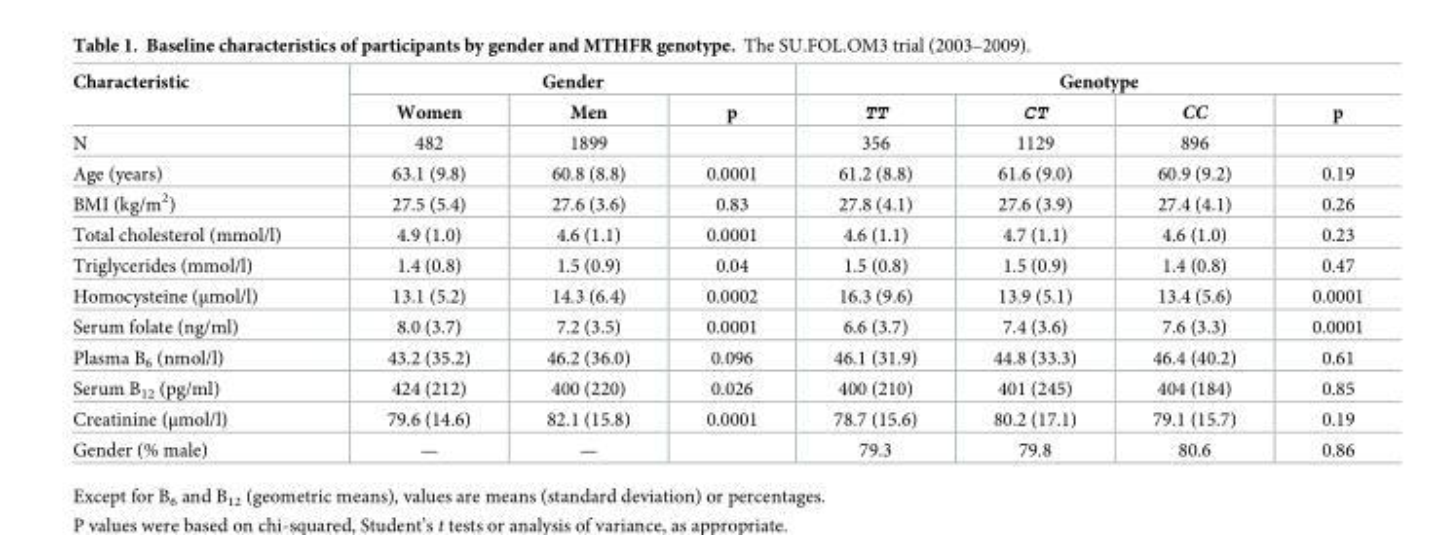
<table><thead><tr><td rowspan="2">Characteristic</td><td colspan="3">Gender</td><td colspan="4">Genotype</td></tr><tr><td>Women</td><td>Men</td><td>p</td><td>TT</td><td>CT</td><td>CC</td><td>p</td></tr></thead><tbody><tr><td>N</td><td>482</td><td>1899</td><td></td><td>356</td><td>1129</td><td>896</td><td></td></tr><tr><td>Age (years)</td><td>63.1 (9.8)</td><td>60.8 (8.8)</td><td>0.0001</td><td>61.2 (8.8)</td><td>61.6 (9.0)</td><td>60.9 (9.2)</td><td>0.19</td></tr><tr><td>BMI (kg/m<sup>2</sup>)</td><td>27.5 (5.4)</td><td>27.6 (3.6)</td><td>0.83</td><td>27.8 (4.1)</td><td>27.6 (3.9)</td><td>27.4 (4.1)</td><td>0.26</td></tr><tr><td>Total cholesterol (mmol/l)</td><td>4.9 (1.0)</td><td>4.6 (1.1)</td><td>0.0001</td><td>4.6 (1.1)</td><td>4.7 (1.1)</td><td>4.6 (1.0)</td><td>0.23</td></tr><tr><td>Triglycerides (mmol/l)</td><td>1.4 (0.8)</td><td>1.5 (0.9)</td><td>0.04</td><td>1.5 (0.8)</td><td>1.5 (0.9)</td><td>1.4 (0.8)</td><td>0.47</td></tr><tr><td>Homocysteine (μmol/l)</td><td>13.1 (5.2)</td><td>14.3 (6.4)</td><td>0.0002</td><td>16.3 (9.6)</td><td>13.9 (5.1)</td><td>13.4 (5.6)</td><td>0.0001</td></tr><tr><td>Serum folate (ng/ml)</td><td>8.0 (3.7)</td><td>7.2 (3.5)</td><td>0.0001</td><td>6.6 (3.7)</td><td>7.4 (3.6)</td><td>7.6 (3.3)</td><td>0.0001</td></tr><tr><td>Plasma B<sub>6</sub> (nmol/l)</td><td>43.2 (35.2)</td><td>46.2 (36.0)</td><td>0.096</td><td>46.1 (31.9)</td><td>44.8 (33.3)</td><td>46.4 (40.2)</td><td>0.61</td></tr><tr><td>Serum B<sub>12</sub> (pg/ml)</td><td>424 (212)</td><td>400 (220)</td><td>0.026</td><td>400 (210)</td><td>401 (245)</td><td>404 (184)</td><td>0.85</td></tr><tr><td>Creatinine (μmol/l)</td><td>79.6 (14.6)</td><td>82.1 (15.8)</td><td>0.0001</td><td>78.7 (15.6)</td><td>80.2 (17.1)</td><td>79.1 (15.7)</td><td>0.19</td></tr><tr><td>Gender (% male)</td><td>—</td><td>—</td><td></td><td>79.3</td><td>79.8</td><td>80.6</td><td>0.86</td></tr></tbody></table>